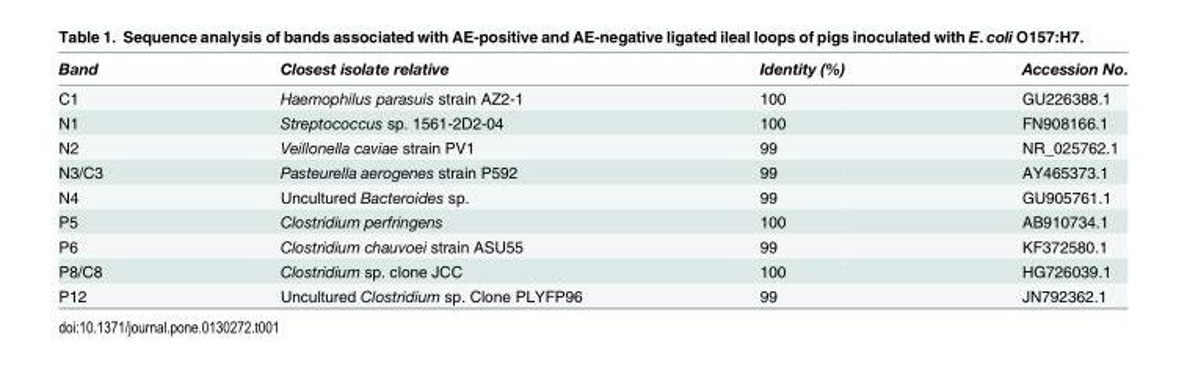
<table><thead><tr><td>Band</td><td>Closest isolate relative</td><td>Identity (%)</td><td>Accession No.</td></tr></thead><tbody><tr><td>C1</td><td>Haemophilus parasuis strain AZ2-1</td><td>100</td><td>GU226388.1</td></tr><tr><td>N1</td><td>Streptococcus sp. 1561-2D2-04</td><td>100</td><td>FN908166.1</td></tr><tr><td>N2</td><td>Veillonella caviae strain PV1</td><td>99</td><td>NR_025762.1</td></tr><tr><td>N3/C3</td><td>Pasteurella aerogenes strain P592</td><td>99</td><td>AY465373.1</td></tr><tr><td>N4</td><td>Uncultured Bacteroides sp.</td><td>99</td><td>GU905761.1</td></tr><tr><td>P5</td><td>Clostridium perfringens</td><td>100</td><td>AB910734.1</td></tr><tr><td>P6</td><td>Clostridium chauvoei strain ASU55</td><td>99</td><td>KF372580.1</td></tr><tr><td>P8/C8</td><td>Clostridium sp. clone JCC</td><td>100</td><td>HG726039.1</td></tr><tr><td>P12</td><td>Uncultured Clostridium sp. Clone PLYFP96</td><td>99</td><td>JN792362.1</td></tr></tbody></table>